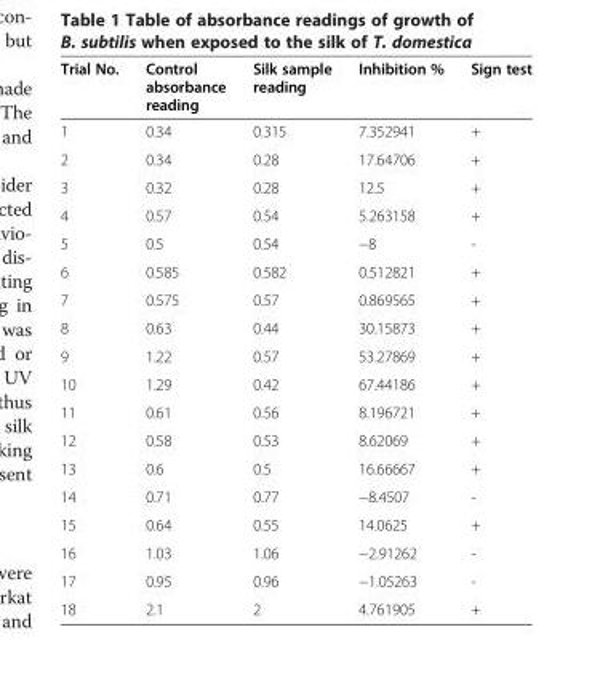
<table><thead><tr><td>Trial No.</td><td>Control absorbance reading</td><td>Silk sample reading</td><td>Inhibition %</td><td>Sign test</td></tr></thead><tbody><tr><td>1</td><td>0.34</td><td>0.315</td><td>7.352941</td><td>+</td></tr><tr><td>2</td><td>0.34</td><td>0.28</td><td>17.64706</td><td>+</td></tr><tr><td>3</td><td>0.32</td><td>0.28</td><td>12.5</td><td>+</td></tr><tr><td>4</td><td>0.57</td><td>0.54</td><td>5.263158</td><td>+</td></tr><tr><td>5</td><td>0.5</td><td>0.54</td><td>−8</td><td>-</td></tr><tr><td>6</td><td>0.585</td><td>0.582</td><td>0.512821</td><td>+</td></tr><tr><td>7</td><td>0.575</td><td>0.57</td><td>0.869565</td><td>+</td></tr><tr><td>8</td><td>0.63</td><td>0.44</td><td>30.15873</td><td>+</td></tr><tr><td>9</td><td>1.22</td><td>0.57</td><td>53.27869</td><td>+</td></tr><tr><td>10</td><td>1.29</td><td>0.42</td><td>67.44186</td><td>+</td></tr><tr><td>11</td><td>0.61</td><td>0.56</td><td>8.196721</td><td>+</td></tr><tr><td>12</td><td>0.58</td><td>0.53</td><td>8.62069</td><td>+</td></tr><tr><td>13</td><td>0.6</td><td>0.5</td><td>16.66667</td><td>+</td></tr><tr><td>14</td><td>0.71</td><td>0.77</td><td>−8.4507</td><td>-</td></tr><tr><td>15</td><td>0.64</td><td>0.55</td><td>14.0625</td><td>+</td></tr><tr><td>16</td><td>1.03</td><td>1.06</td><td>−2.91262</td><td>-</td></tr><tr><td>17</td><td>0.95</td><td>0.96</td><td>−1.05263</td><td>-</td></tr><tr><td>18</td><td>2.1</td><td>2</td><td>4.761905</td><td>+</td></tr></tbody></table>